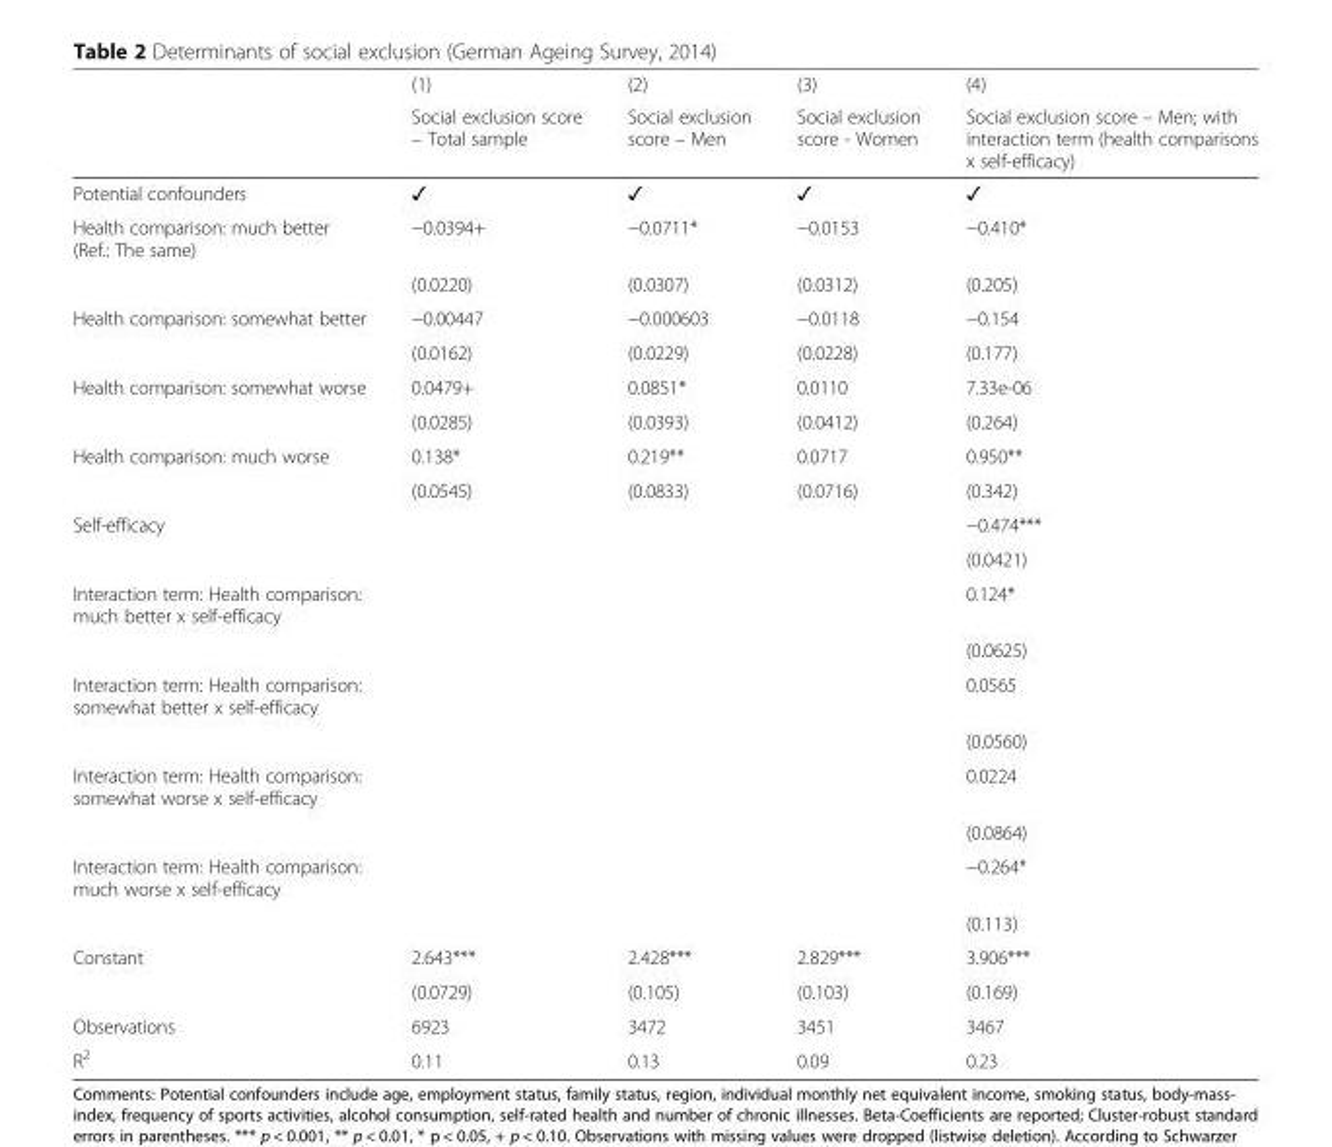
<table><thead><tr><td rowspan="2"></td><td rowspan="2">(1) Social exclusion score – Total sample</td><td rowspan="2">(2) Social exclusion score – Men</td><td rowspan="2">(3) Social exclusion score - Women</td><td rowspan="2">(4) Social exclusion score – Men; with interaction term (health comparisons x self-efficacy)</td></tr><tr></tr></thead><tbody><tr><td>Potential confounders</td><td>✓</td><td>✓</td><td>✓</td><td>✓</td></tr><tr><td rowspan="2">Health comparison: much better (Ref.: The same)</td><td>−0.0394+</td><td>−0.0711*</td><td>−0.0153</td><td>−0.410*</td></tr><tr><td>(0.0220)</td><td>(0.0307)</td><td>(0.0312)</td><td>(0.205)</td></tr><tr><td rowspan="2">Health comparison: somewhat better</td><td>−0.00447</td><td>−0.000603</td><td>−0.0118</td><td>−0.154</td></tr><tr><td>(0.0162)</td><td>(0.0229)</td><td>(0.0228)</td><td>(0.177)</td></tr><tr><td rowspan="2">Health comparison: somewhat worse</td><td>0.0479+</td><td>0.0851*</td><td>0.0110</td><td>7.33e-06</td></tr><tr><td>(0.0285)</td><td>(0.0393)</td><td>(0.0412)</td><td>(0.264)</td></tr><tr><td rowspan="2">Health comparison: much worse</td><td>0.138*</td><td>0.219**</td><td>0.0717</td><td>0.950**</td></tr><tr><td>(0.0545)</td><td>(0.0833)</td><td>(0.0716)</td><td>(0.342)</td></tr><tr><td rowspan="2">Self-efficacy</td><td></td><td></td><td></td><td>−0.474***</td></tr><tr><td></td><td></td><td></td><td>(0.0421)</td></tr><tr><td rowspan="2">Interaction term: Health comparison: much better x self-efficacy</td><td></td><td></td><td></td><td>0.124*</td></tr><tr><td></td><td></td><td></td><td>(0.0625)</td></tr><tr><td rowspan="2">Interaction term: Health comparison: somewhat better x self-efficacy</td><td></td><td></td><td></td><td>0.0565</td></tr><tr><td></td><td></td><td></td><td>(0.0560)</td></tr><tr><td rowspan="2">Interaction term: Health comparison: somewhat worse x self-efficacy</td><td></td><td></td><td></td><td>0.0224</td></tr><tr><td></td><td></td><td></td><td>(0.0864)</td></tr><tr><td rowspan="2">Interaction term: Health comparison: much worse x self-efficacy</td><td></td><td></td><td></td><td>−0.264*</td></tr><tr><td></td><td></td><td></td><td>(0.113)</td></tr><tr><td rowspan="2">Constant</td><td>2.643***</td><td>2.428***</td><td>2.829***</td><td>3.906***</td></tr><tr><td>(0.0729)</td><td>(0.105)</td><td>(0.103)</td><td>(0.169)</td></tr><tr><td>Observations</td><td>6923</td><td>3472</td><td>3451</td><td>3467</td></tr><tr><td>R<sup>2</sup></td><td>0.11</td><td>0.13</td><td>0.09</td><td>0.23</td></tr></tbody></table>